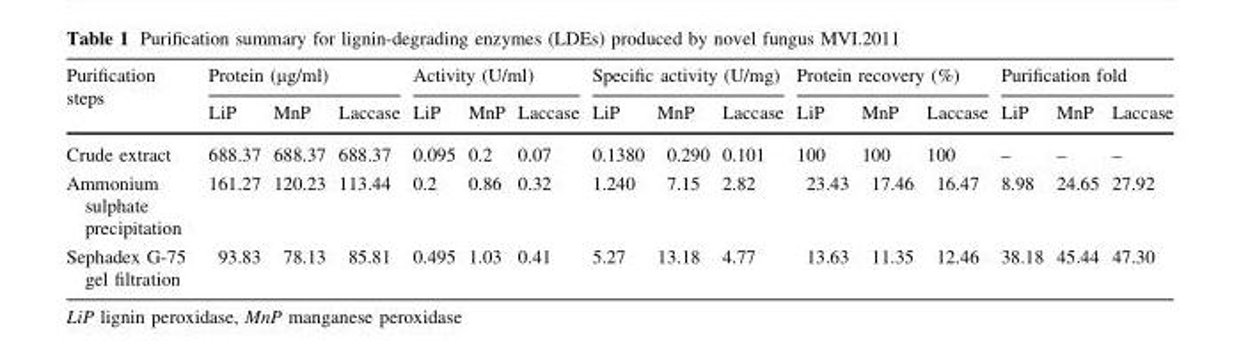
<table><thead><tr><td rowspan="2">Purification steps</td><td colspan="3">Protein (µg/ml)</td><td colspan="3">Activity (U/ml)</td><td colspan="3">Specific activity (U/mg)</td><td colspan="3">Protein recovery (%)</td><td colspan="3">Purification fold</td></tr><tr><td>LiP</td><td>MnP</td><td>Laccase</td><td>LiP</td><td>MnP</td><td>Laccase</td><td>LiP</td><td>MnP</td><td>Laccase</td><td>LiP</td><td>MnP</td><td>Laccase</td><td>LiP</td><td>MnP</td><td>Laccase</td></tr></thead><tbody><tr><td>Crude extract</td><td>688.37</td><td>688.37</td><td>688.37</td><td>0.095</td><td>0.2</td><td>0.07</td><td>0.1380</td><td>0.290</td><td>0.101</td><td>100</td><td>100</td><td>100</td><td>–</td><td>–</td><td>–</td></tr><tr><td>Ammonium sulphate precipitation</td><td>161.27</td><td>120.23</td><td>113.44</td><td>0.2</td><td>0.86</td><td>0.32</td><td>1.240</td><td>7.15</td><td>2.82</td><td>23.43</td><td>17.46</td><td>16.47</td><td>8.98</td><td>24.65</td><td>27.92</td></tr><tr><td>Sephadex G-75 gel filtration</td><td>93.83</td><td>78.13</td><td>85.81</td><td>0.495</td><td>1.03</td><td>0.41</td><td>5.27</td><td>13.18</td><td>4.77</td><td>13.63</td><td>11.35</td><td>12.46</td><td>38.18</td><td>45.44</td><td>47.30</td></tr></tbody></table>